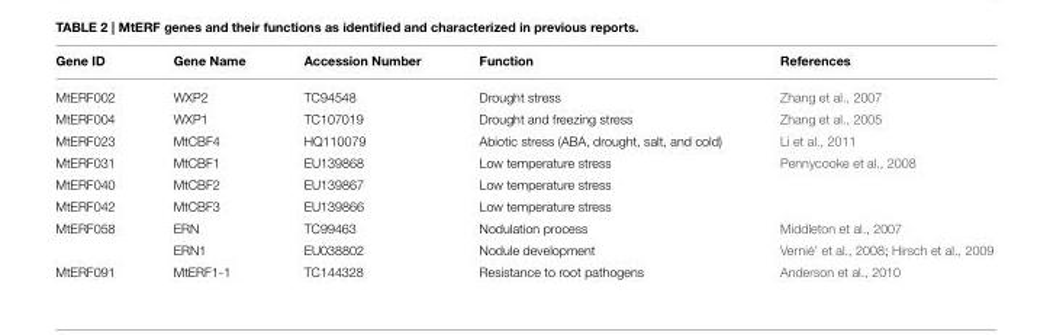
<table><thead><tr><td>Gene ID</td><td>Gene Name</td><td>Accession Number</td><td>Function</td><td>References</td></tr></thead><tbody><tr><td>MtERF002</td><td>WXP2</td><td>TC94548</td><td>Drought stress</td><td>Zhang et al., 2007</td></tr><tr><td>MtERF004</td><td>WXP1</td><td>TC107019</td><td>Drought and freezing stress</td><td>Zhang et al., 2005</td></tr><tr><td>MtERF023</td><td>MtCBF4</td><td>HQ110079</td><td>Abiotic stress (ABA, drought, salt, and cold)</td><td>Li et al., 2011</td></tr><tr><td>MtERF031</td><td>MtCBF1</td><td>EU139868</td><td>Low temperature stress</td><td>Pennycooke et al., 2008</td></tr><tr><td>MtERF040</td><td>MtCBF2</td><td>EU139867</td><td>Low temperature stress</td><td></td></tr><tr><td>MtERF042</td><td>MtCBF3</td><td>EU139866</td><td>Low temperature stress</td><td></td></tr><tr><td rowspan="2">MtERF058</td><td>ERN</td><td>TC99463</td><td>Nodulation process</td><td>Middleton et al., 2007</td></tr><tr><td>ERN1</td><td>EU038802</td><td>Nodule development</td><td>Vernié’ et al., 2008; Hirsch et al., 2009</td></tr><tr><td>MtERF091</td><td>MtERF1-1</td><td>TC144328</td><td>Resistance to root pathogens</td><td>Anderson et al., 2010</td></tr></tbody></table>